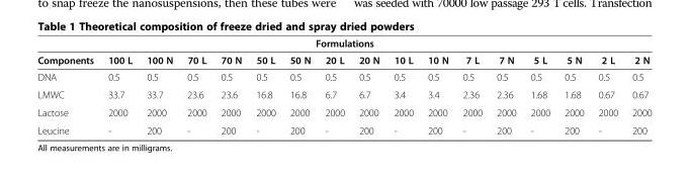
<table><thead><tr><td colspan="17">Formulations</td></tr><tr><td>Components</td><td>100 L</td><td>100 N</td><td>70 L</td><td>70 N</td><td>50 L</td><td>50 N</td><td>20 L</td><td>20 N</td><td>10 L</td><td>10 N</td><td>7 L</td><td>7 N</td><td>5 L</td><td>5 N</td><td>2 L</td><td>2 N</td></tr></thead><tbody><tr><td>DNA</td><td>0.5</td><td>0.5</td><td>0.5</td><td>0.5</td><td>0.5</td><td>0.5</td><td>0.5</td><td>0.5</td><td>0.5</td><td>0.5</td><td>0.5</td><td>0.5</td><td>0.5</td><td>0.5</td><td>0.5</td><td>0.5</td></tr><tr><td>LMWC</td><td>33.7</td><td>33.7</td><td>23.6</td><td>23.6</td><td>16.8</td><td>16.8</td><td>6.7</td><td>6.7</td><td>3.4</td><td>3.4</td><td>2.36</td><td>2.36</td><td>1.68</td><td>1.68</td><td>0.67</td><td>0.67</td></tr><tr><td>Lactose</td><td>2000</td><td>2000</td><td>2000</td><td>2000</td><td>2000</td><td>2000</td><td>2000</td><td>2000</td><td>2000</td><td>2000</td><td>2000</td><td>2000</td><td>2000</td><td>2000</td><td>2000</td><td>2000</td></tr><tr><td>Leucine</td><td>-</td><td>200</td><td>-</td><td>200</td><td>-</td><td>200</td><td>-</td><td>200</td><td>-</td><td>200</td><td>-</td><td>200</td><td>-</td><td>200</td><td>-</td><td>200</td></tr></tbody></table>